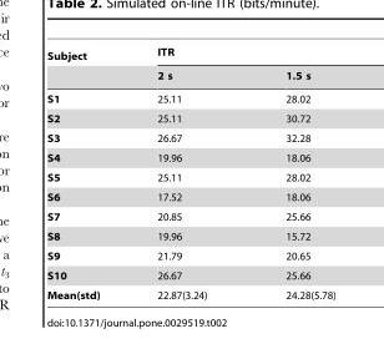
<table><thead><tr><td rowspan="2">Subject</td><td colspan="2">ITR</td></tr><tr><td>2 s</td><td>1.5 s</td></tr></thead><tbody><tr><td>S1</td><td>25.11</td><td>28.02</td></tr><tr><td>S2</td><td>25.11</td><td>30.72</td></tr><tr><td>S3</td><td>26.67</td><td>32.28</td></tr><tr><td>S4</td><td>19.96</td><td>18.06</td></tr><tr><td>S5</td><td>25.11</td><td>28.02</td></tr><tr><td>S6</td><td>17.52</td><td>18.06</td></tr><tr><td>S7</td><td>20.85</td><td>25.66</td></tr><tr><td>S8</td><td>19.96</td><td>15.72</td></tr><tr><td>S9</td><td>21.79</td><td>20.65</td></tr><tr><td>S10</td><td>26.67</td><td>25.66</td></tr><tr><td>Mean(std)</td><td>22.87(3.24)</td><td>24.28(5.78)</td></tr></tbody></table>